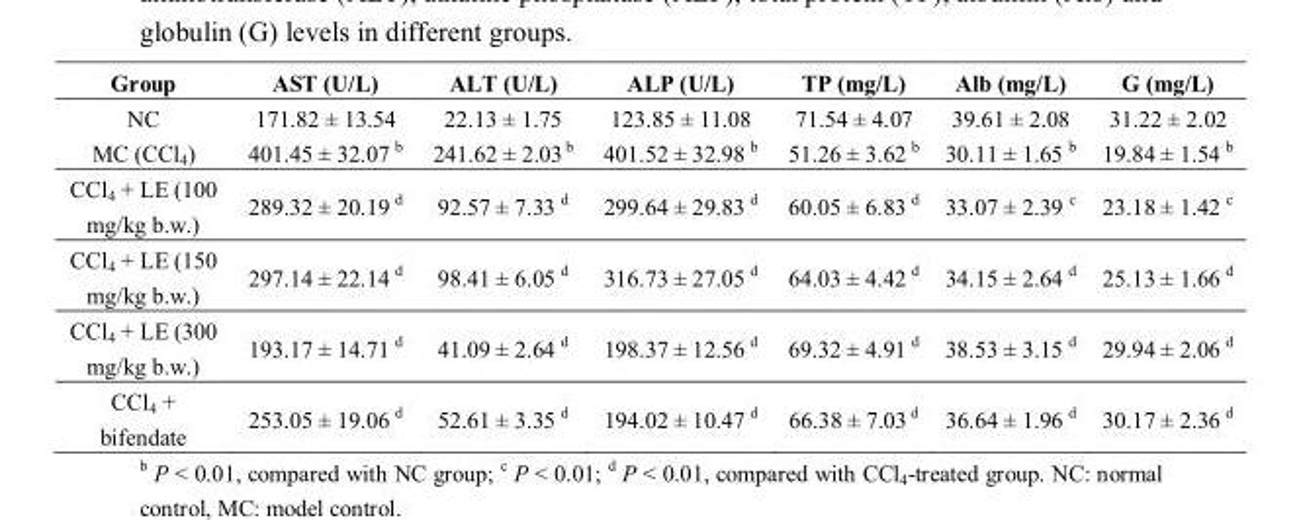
<table><thead><tr><td>Group</td><td>AST (U/L)</td><td>ALT (U/L)</td><td>ALP (U/L)</td><td>TP (mg/L)</td><td>Alb (mg/L)</td><td>G (mg/L)</td></tr></thead><tbody><tr><td>NC</td><td>171.82 ± 13.54</td><td>22.13 ± 1.75</td><td>123.85 ± 11.08</td><td>71.54 ± 4.07</td><td>39.61 ± 2.08</td><td>31.22 ± 2.02</td></tr><tr><td>MC (CCl<sub>4</sub>)</td><td>401.45 ± 32.07 b</td><td>241.62 ± 2.03 b</td><td>401.52 ± 32.98 b</td><td>51.26 ± 3.62 b</td><td>30.11 ± 1.65 b</td><td>19.84 ± 1.54 b</td></tr><tr><td>CCl<sub>4</sub> + LE (100 mg/kg b.w.)</td><td>289.32 ± 20.19 d</td><td>92.57 ± 7.33 d</td><td>299.64 ± 29.83 d</td><td>60.05 ± 6.83 d</td><td>33.07 ± 2.39 c</td><td>23.18 ± 1.42 c</td></tr><tr><td>CCl<sub>4</sub> + LE (150 mg/kg b.w.)</td><td>297.14 ± 22.14 d</td><td>98.41 ± 6.05 d</td><td>316.73 ± 27.05 d</td><td>64.03 ± 4.42 d</td><td>34.15 ± 2.64 d</td><td>25.13 ± 1.66 d</td></tr><tr><td>CCl<sub>4</sub> + LE (300 mg/kg b.w.)</td><td>193.17 ± 14.71 d</td><td>41.09 ± 2.64 d</td><td>198.37 ± 12.56 d</td><td>69.32 ± 4.91 d</td><td>38.53 ± 3.15 d</td><td>29.94 ± 2.06 d</td></tr><tr><td>CCl<sub>4</sub> + bifendate</td><td>253.05 ± 19.06 d</td><td>52.61 ± 3.35 d</td><td>194.02 ± 10.47 d</td><td>66.38 ± 7.03 d</td><td>36.64 ± 1.96 d</td><td>30.17 ± 2.36 d</td></tr></tbody></table>